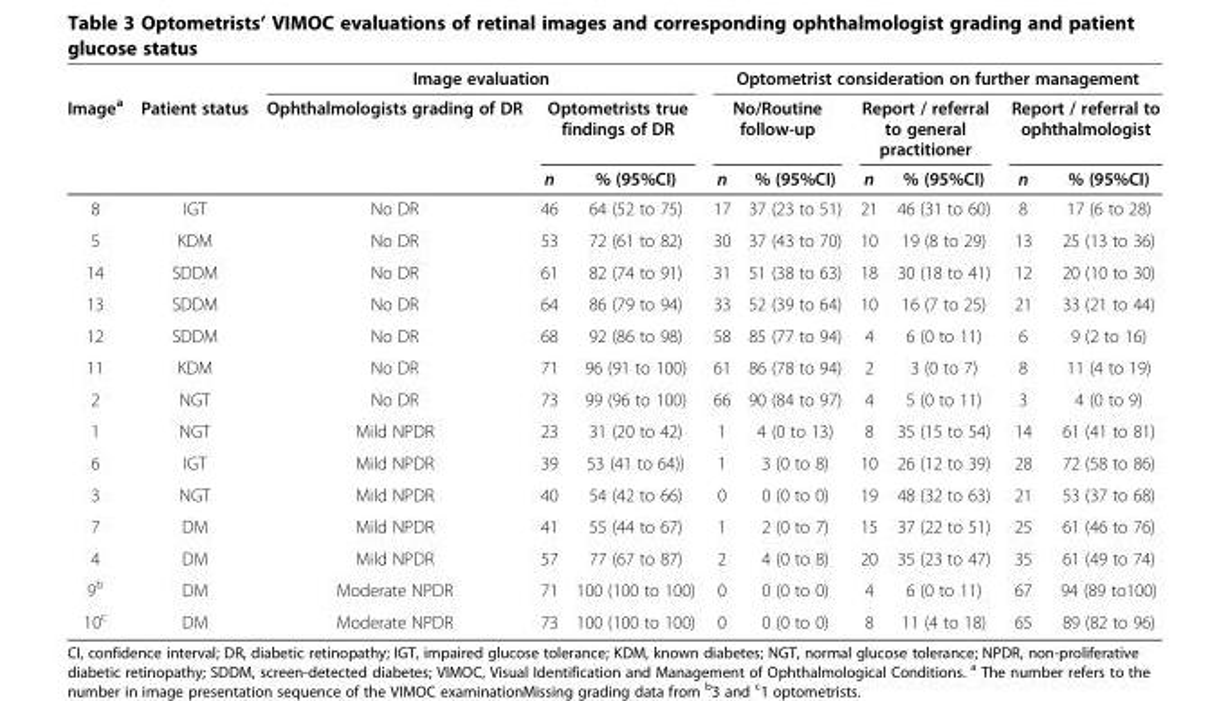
<table><thead><tr><td rowspan="3">Image<sup>a</sup></td><td rowspan="3">Patient status</td><td colspan="3">Image evaluation</td><td colspan="6">Optometrist consideration on further management</td></tr><tr><td rowspan="2">Ophthalmologists grading of DR</td><td colspan="2">Optometrists true findings of DR</td><td colspan="2">No/Routine follow-up</td><td colspan="2">Report / referral to general practitioner</td><td colspan="2">Report / referral to ophthalmologist</td></tr><tr><td>n</td><td>% (95%CI)</td><td>n</td><td>% (95%CI)</td><td>n</td><td>% (95%CI)</td><td>n</td><td>% (95%CI)</td></tr></thead><tbody><tr><td>8</td><td>IGT</td><td>No DR</td><td>46</td><td>64 (52 to 75)</td><td>17</td><td>37 (23 to 51)</td><td>21</td><td>46 (31 to 60)</td><td>8</td><td>17 (6 to 28)</td></tr><tr><td>5</td><td>KDM</td><td>No DR</td><td>53</td><td>72 (61 to 82)</td><td>30</td><td>37 (43 to 70)</td><td>10</td><td>19 (8 to 29)</td><td>13</td><td>25 (13 to 36)</td></tr><tr><td>14</td><td>SDDM</td><td>No DR</td><td>61</td><td>82 (74 to 91)</td><td>31</td><td>51 (38 to 63)</td><td>18</td><td>30 (18 to 41)</td><td>12</td><td>20 (10 to 30)</td></tr><tr><td>13</td><td>SDDM</td><td>No DR</td><td>64</td><td>86 (79 to 94)</td><td>33</td><td>52 (39 to 64)</td><td>10</td><td>16 (7 to 25)</td><td>21</td><td>33 (21 to 44)</td></tr><tr><td>12</td><td>SDDM</td><td>No DR</td><td>68</td><td>92 (86 to 98)</td><td>58</td><td>85 (77 to 94)</td><td>4</td><td>6 (0 to 11)</td><td>6</td><td>9 (2 to 16)</td></tr><tr><td>11</td><td>KDM</td><td>No DR</td><td>71</td><td>96 (91 to 100)</td><td>61</td><td>86 (78 to 94)</td><td>2</td><td>3 (0 to 7)</td><td>8</td><td>11 (4 to 19)</td></tr><tr><td>2</td><td>NGT</td><td>No DR</td><td>73</td><td>99 (96 to 100)</td><td>66</td><td>90 (84 to 97)</td><td>4</td><td>5 (0 to 11)</td><td>3</td><td>4 (0 to 9)</td></tr><tr><td>1</td><td>NGT</td><td>Mild NPDR</td><td>23</td><td>31 (20 to 42)</td><td>1</td><td>4 (0 to 13)</td><td>8</td><td>35 (15 to 54)</td><td>14</td><td>61 (41 to 81)</td></tr><tr><td>6</td><td>IGT</td><td>Mild NPDR</td><td>39</td><td>53 (41 to 64))</td><td>1</td><td>3 (0 to 8)</td><td>10</td><td>26 (12 to 39)</td><td>28</td><td>72 (58 to 86)</td></tr><tr><td>3</td><td>NGT</td><td>Mild NPDR</td><td>40</td><td>54 (42 to 66)</td><td>0</td><td>0 (0 to 0)</td><td>19</td><td>48 (32 to 63)</td><td>21</td><td>53 (37 to 68)</td></tr><tr><td>7</td><td>DM</td><td>Mild NPDR</td><td>41</td><td>55 (44 to 67)</td><td>1</td><td>2 (0 to 7)</td><td>15</td><td>37 (22 to 51)</td><td>25</td><td>61 (46 to 76)</td></tr><tr><td>4</td><td>DM</td><td>Mild NPDR</td><td>57</td><td>77 (67 to 87)</td><td>2</td><td>4 (0 to 8)</td><td>20</td><td>35 (23 to 47)</td><td>35</td><td>61 (49 to 74)</td></tr><tr><td>9<sup>b</sup></td><td>DM</td><td>Moderate NPDR</td><td>71</td><td>100 (100 to 100)</td><td>0</td><td>0 (0 to 0)</td><td>4</td><td>6 (0 to 11)</td><td>67</td><td>94 (89 to100)</td></tr><tr><td>10<sup>c</sup></td><td>DM</td><td>Moderate NPDR</td><td>73</td><td>100 (100 to 100)</td><td>0</td><td>0 (0 to 0)</td><td>8</td><td>11 (4 to 18)</td><td>65</td><td>89 (82 to 96)</td></tr></tbody></table>